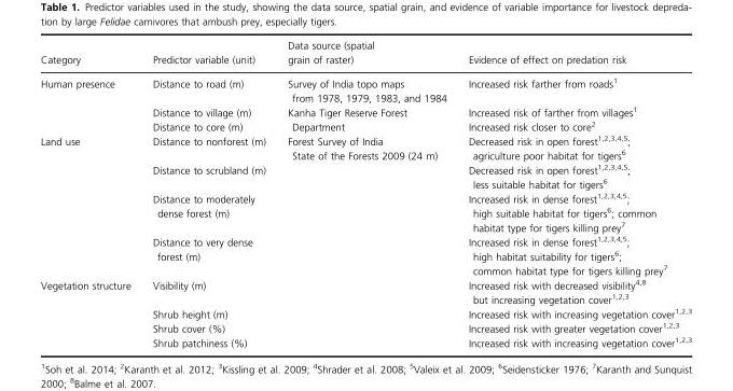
<table><thead><tr><td>Category</td><td>Predictor variable (unit)</td><td>Data source (spatial grain of raster)</td><td>Evidence of effect on predation risk</td></tr></thead><tbody><tr><td rowspan="3">Human presence</td><td>Distance to road (m)</td><td>Survey of India topo maps from 1978, 1979, 1983, and 1984</td><td>Increased risk farther from roads<sup>1</sup></td></tr><tr><td>Distance to village (m)</td><td rowspan="2">Kanha Tiger Reserve Forest Department</td><td>Increased risk of farther from villages<sup>1</sup></td></tr><tr><td>Distance to core (m)</td><td>Increased risk closer to core<sup>2</sup></td></tr><tr><td rowspan="4">Land use</td><td>Distance to nonforest (m)</td><td rowspan="4">Forest Survey of India State of the Forests 2009 (24 m)</td><td>Decreased risk in open forest<sup>1</sup>,<sup>2</sup>,<sup>3</sup>,<sup>4</sup>,<sup>5</sup>; agriculture poor habitat for tigers<sup>6</sup></td></tr><tr><td>Distance to scrubland (m)</td><td>Decreased risk in open forest<sup>1</sup>,<sup>2</sup>,<sup>3</sup>,<sup>4</sup>,<sup>5</sup>; less suitable habitat for tigers<sup>6</sup></td></tr><tr><td>Distance to moderately dense forest (m)</td><td>Increased risk in dense forest<sup>1</sup>,<sup>2</sup>,<sup>3</sup>,<sup>4</sup>,<sup>5</sup>; high suitable habitat for tigers<sup>6</sup>; common habitat type for tigers killing prey<sup>7</sup></td></tr><tr><td>Distance to very dense forest (m)</td><td>Increased risk in dense forest<sup>1</sup>,<sup>2</sup>,<sup>3</sup>,<sup>4</sup>,<sup>5</sup>; high habitat suitability for tigers<sup>6</sup>; common habitat type for tigers killing prey<sup>7</sup></td></tr><tr><td rowspan="4">Vegetation structure</td><td>Visibility (m)</td><td></td><td>Increased risk with decreased visibility<sup>4</sup>,<sup>8</sup> but increasing vegetation cover<sup>1</sup>,<sup>2</sup>,<sup>3</sup></td></tr><tr><td>Shrub height (m)</td><td></td><td>Increased risk with increasing vegetation cover<sup>1</sup>,<sup>2</sup>,<sup>3</sup></td></tr><tr><td>Shrub cover (%)</td><td></td><td>Increased risk with greater vegetation cover<sup>1</sup>,<sup>2</sup>,<sup>3</sup></td></tr><tr><td>Shrub patchiness (%)</td><td></td><td>Increased risk with increasing vegetation cover<sup>1</sup>,<sup>2</sup>,<sup>3</sup></td></tr></tbody></table>